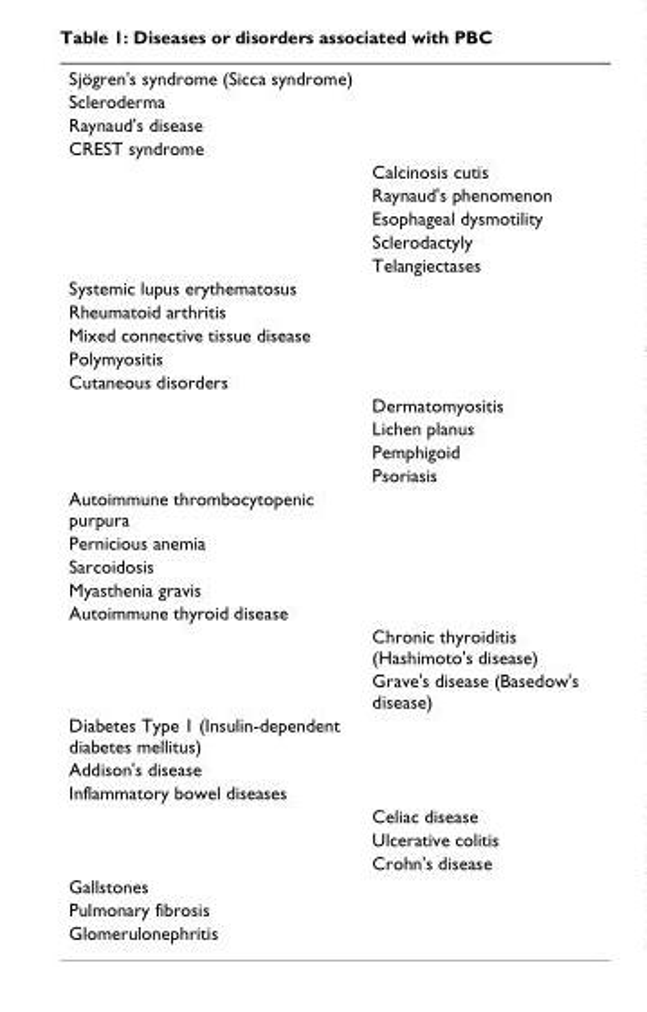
<table><tbody><tr><td colspan="2">Sjögren&#x27;s syndrome (Sicca syndrome)</td></tr><tr><td colspan="2">Scleroderma</td></tr><tr><td colspan="2">Raynaud&#x27;s disease</td></tr><tr><td colspan="2">CREST syndrome</td></tr><tr><td></td><td>Calcinosis cutis</td></tr><tr><td></td><td>Raynaud&#x27;s phenomenon</td></tr><tr><td></td><td>Esophageal dysmotility</td></tr><tr><td></td><td>Sclerodactyly</td></tr><tr><td></td><td>Telangiectases</td></tr><tr><td colspan="2">Systemic lupus erythematosus</td></tr><tr><td colspan="2">Rheumatoid arthritis</td></tr><tr><td colspan="2">Mixed connective tissue disease</td></tr><tr><td colspan="2">Polymyositis</td></tr><tr><td colspan="2">Cutaneous disorders</td></tr><tr><td></td><td>Dermatomyositis</td></tr><tr><td></td><td>Lichen planus</td></tr><tr><td></td><td>Pemphigoid</td></tr><tr><td></td><td>Psoriasis</td></tr><tr><td colspan="2">Autoimmune thrombocytopenic purpura</td></tr><tr><td colspan="2">Pernicious anemia</td></tr><tr><td colspan="2">Sarcoidosis</td></tr><tr><td colspan="2">Myasthenia gravis</td></tr><tr><td colspan="2">Autoimmune thyroid disease</td></tr><tr><td></td><td>Chronic thyroiditis (Hashimoto&#x27;s disease)</td></tr><tr><td></td><td>Grave&#x27;s disease (Basedow&#x27;s disease)</td></tr><tr><td colspan="2">Diabetes Type 1 (Insulin-dependent diabetes mellitus)</td></tr><tr><td colspan="2">Addison&#x27;s disease</td></tr><tr><td colspan="2">Inflammatory bowel diseases</td></tr><tr><td></td><td>Celiac disease</td></tr><tr><td></td><td>Ulcerative colitis</td></tr><tr><td></td><td>Crohn&#x27;s disease</td></tr><tr><td colspan="2">Gallstones</td></tr><tr><td colspan="2">Pulmonary fibrosis</td></tr><tr><td>Glomerulonephritis</td><td></td></tr></tbody></table>